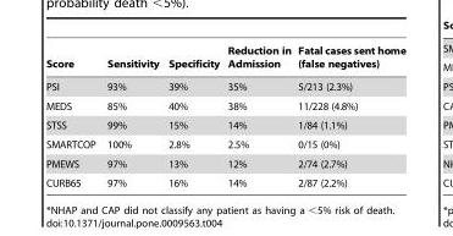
<table><thead><tr><td>Score</td><td>Sensitivity</td><td>Specificity</td><td>Reduction in Admission</td><td>Fatal cases sent home (false negatives)</td></tr></thead><tbody><tr><td>PSI</td><td>93%</td><td>39%</td><td>35%</td><td>5/213 (2.3%)</td></tr><tr><td>MEDS</td><td>85%</td><td>40%</td><td>38%</td><td>11/228 (4.8%)</td></tr><tr><td>STSS</td><td>99%</td><td>15%</td><td>14%</td><td>1/84 (1.1%)</td></tr><tr><td>SMARTCOP</td><td>100%</td><td>2.8%</td><td>2.5%</td><td>0/15 (0%)</td></tr><tr><td>PMEWS</td><td>97%</td><td>13%</td><td>12%</td><td>2/74 (2.7%)</td></tr><tr><td>CURB65</td><td>97%</td><td>16%</td><td>14%</td><td>2/87 (2.2%)</td></tr></tbody></table>